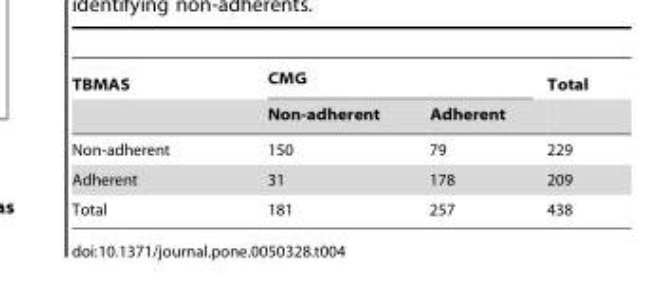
<table><thead><tr><td rowspan="2">TBMAS</td><td colspan="2">CMG</td><td rowspan="2">Total</td></tr><tr><td>Non-adherent</td><td>Adherent</td></tr></thead><tbody><tr><td>Non-adherent</td><td>150</td><td>79</td><td>229</td></tr><tr><td>Adherent</td><td>31</td><td>178</td><td>209</td></tr><tr><td>Total</td><td>181</td><td>257</td><td>438</td></tr></tbody></table>